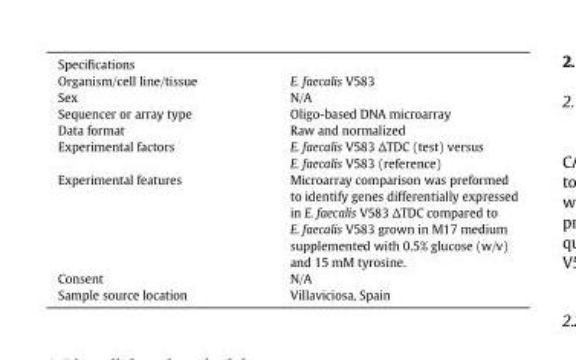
<table><tbody><tr><td colspan="2">Specifications</td></tr><tr><td>Organism/cell line/tissue</td><td>E. faecalis V583</td></tr><tr><td>Sex</td><td>N/A</td></tr><tr><td>Sequencer or array type</td><td>Oligo-based DNA microarray</td></tr><tr><td>Data format</td><td>Raw and normalized</td></tr><tr><td>Experimental factors</td><td>E. faecalis V583 ΔTDC (test) versus E. faecalis V583 (reference)</td></tr><tr><td>Experimental features</td><td>Microarray comparison was preformed to identify genes differentially expressed in E. faecalis V583 ΔTDC compared to E. faecalis V583 grown in M17 medium supplemented with 0.5% glucose (w/v) and 15 mM tyrosine.</td></tr><tr><td>Consent</td><td>N/A</td></tr><tr><td>Sample source location</td><td>Villaviciosa, Spain</td></tr></tbody></table>